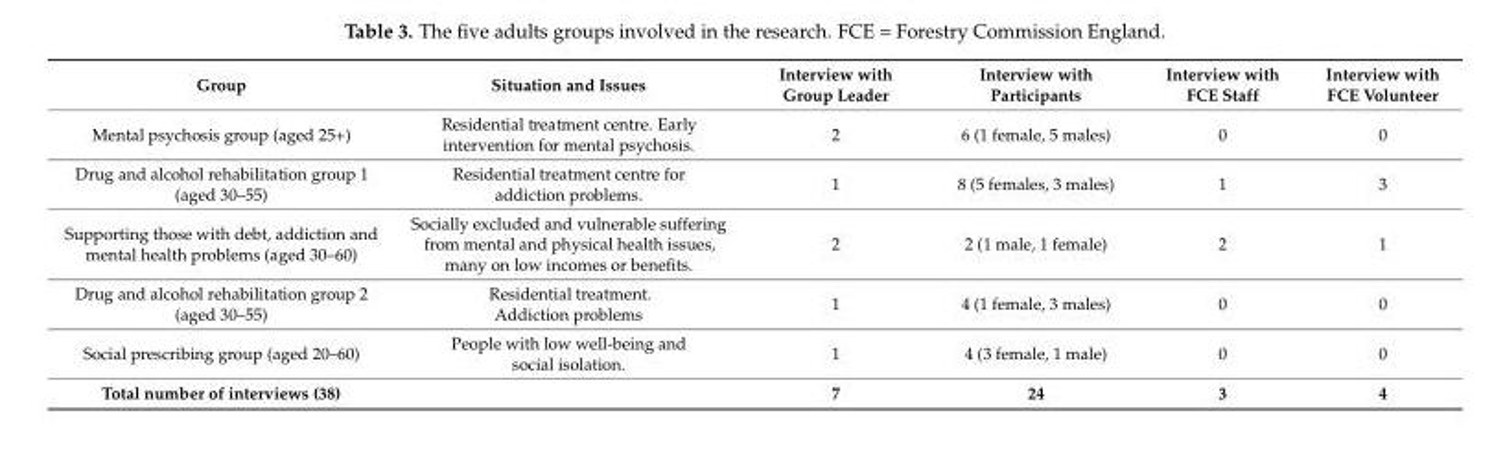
<table><thead><tr><td>Group</td><td>Situation and Issues</td><td>Interview with Group Leader</td><td>Interview with Participants</td><td>Interview with FCE Staff</td><td>Interview with FCE Volunteer</td></tr></thead><tbody><tr><td>Mental psychosis group (aged 25+)</td><td>Residential treatment centre. Early intervention for mental psychosis.</td><td>2</td><td>6 (1 female, 5 males)</td><td>0</td><td>0</td></tr><tr><td>Drug and alcohol rehabilitation group 1 (aged 30–55)</td><td>Residential treatment centre for addiction problems.</td><td>1</td><td>8 (5 females, 3 males)</td><td>1</td><td>3</td></tr><tr><td>Supporting those with debt, addiction and mental health problems (aged 30–60)</td><td>Socially excluded and vulnerable suffering from mental and physical health issues, many on low incomes or benefits.</td><td>2</td><td>2 (1 male, 1 female)</td><td>2</td><td>1</td></tr><tr><td>Drug and alcohol rehabilitation group 2 (aged 30–55)</td><td>Residential treatment. Addiction problems</td><td>1</td><td>4 (1 female, 3 males)</td><td>0</td><td>0</td></tr><tr><td>Social prescribing group (aged 20–60)</td><td>People with low well-being and social isolation.</td><td>1</td><td>4 (3 female, 1 male)</td><td>0</td><td>0</td></tr><tr><td>Total number of interviews (38)</td><td></td><td>7</td><td>24</td><td>3</td><td>4</td></tr></tbody></table>